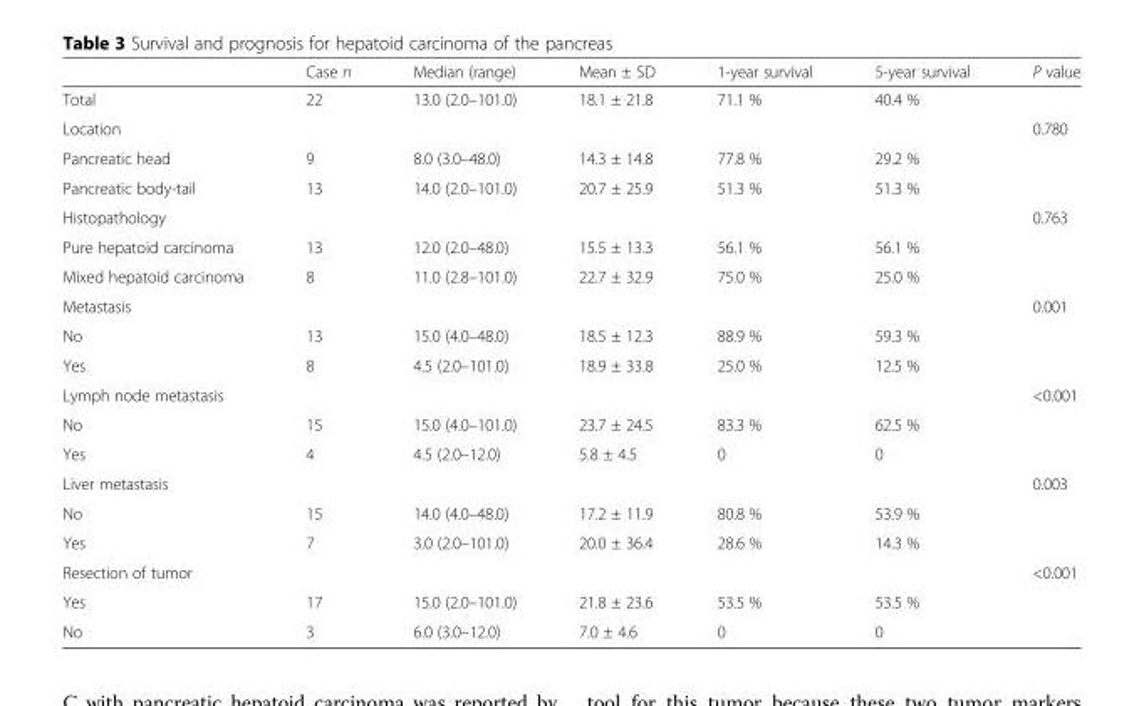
<table><thead><tr><td></td><td>Case n</td><td>Median (range)</td><td>Mean ± SD</td><td>1-year survival</td><td>5-year survival</td><td>P value</td></tr></thead><tbody><tr><td>Total</td><td>22</td><td>13.0 (2.0–101.0)</td><td>18.1 ± 21.8</td><td>71.1 %</td><td>40.4 %</td><td></td></tr><tr><td>Location</td><td></td><td></td><td></td><td></td><td></td><td>0.780</td></tr><tr><td>Pancreatic head</td><td>9</td><td>8.0 (3.0–48.0)</td><td>14.3 ± 14.8</td><td>77.8 %</td><td>29.2 %</td><td rowspan="2"></td></tr><tr><td>Pancreatic body-tail</td><td>13</td><td>14.0 (2.0–101.0)</td><td>20.7 ± 25.9</td><td>51.3 %</td><td>51.3 %</td></tr><tr><td>Histopathology</td><td></td><td></td><td></td><td></td><td></td><td>0.763</td></tr><tr><td>Pure hepatoid carcinoma</td><td>13</td><td>12.0 (2.0–48.0)</td><td>15.5 ± 13.3</td><td>56.1 %</td><td>56.1 %</td><td rowspan="2"></td></tr><tr><td>Mixed hepatoid carcinoma</td><td>8</td><td>11.0 (2.8–101.0)</td><td>22.7 ± 32.9</td><td>75.0 %</td><td>25.0 %</td></tr><tr><td>Metastasis</td><td></td><td></td><td></td><td></td><td></td><td>0.001</td></tr><tr><td>No</td><td>13</td><td>15.0 (4.0–48.0)</td><td>18.5 ± 12.3</td><td>88.9 %</td><td>59.3 %</td><td rowspan="2"></td></tr><tr><td>Yes</td><td>8</td><td>4.5 (2.0–101.0)</td><td>18.9 ± 33.8</td><td>25.0 %</td><td>12.5 %</td></tr><tr><td>Lymph node metastasis</td><td></td><td></td><td></td><td></td><td></td><td>&lt;0.001</td></tr><tr><td>No</td><td>15</td><td>15.0 (4.0–101.0)</td><td>23.7 ± 24.5</td><td>83.3 %</td><td>62.5 %</td><td rowspan="2"></td></tr><tr><td>Yes</td><td>4</td><td>4.5 (2.0–12.0)</td><td>5.8 ± 4.5</td><td>0</td><td>0</td></tr><tr><td>Liver metastasis</td><td></td><td></td><td></td><td></td><td></td><td>0.003</td></tr><tr><td>No</td><td>15</td><td>14.0 (4.0–48.0)</td><td>17.2 ± 11.9</td><td>80.8 %</td><td>53.9 %</td><td rowspan="2"></td></tr><tr><td>Yes</td><td>7</td><td>3.0 (2.0–101.0)</td><td>20.0 ± 36.4</td><td>28.6 %</td><td>14.3 %</td></tr><tr><td>Resection of tumor</td><td></td><td></td><td></td><td></td><td></td><td>&lt;0.001</td></tr><tr><td>Yes</td><td>17</td><td>15.0 (2.0–101.0)</td><td>21.8 ± 23.6</td><td>53.5 %</td><td>53.5 %</td><td rowspan="2"></td></tr><tr><td>No</td><td>3</td><td>6.0 (3.0–12.0)</td><td>7.0 ± 4.6</td><td>0</td><td>0</td></tr></tbody></table>